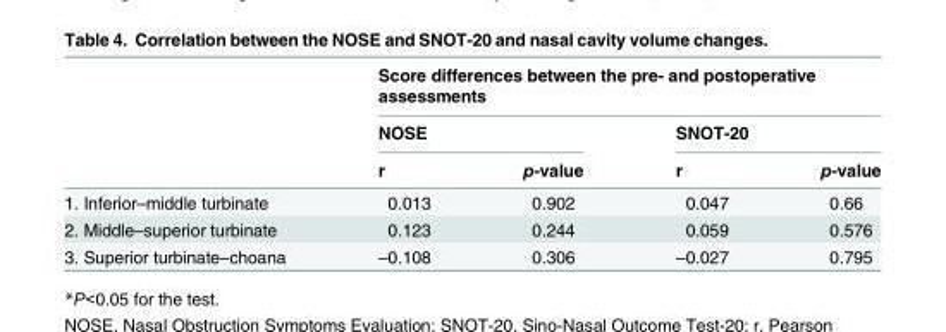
<table><thead><tr><td rowspan="3"></td><td colspan="4">Score differences between the pre- and postoperative assessments</td></tr><tr><td colspan="2">NOSE</td><td colspan="2">SNOT-20</td></tr><tr><td>r</td><td>p-value</td><td>r</td><td>p-value</td></tr></thead><tbody><tr><td>1. Inferior–middle turbinate</td><td>0.013</td><td>0.902</td><td>0.047</td><td>0.66</td></tr><tr><td>2. Middle–superior turbinate</td><td>0.123</td><td>0.244</td><td>0.059</td><td>0.576</td></tr><tr><td>3. Superior turbinate–choana</td><td>–0.108</td><td>0.306</td><td>–0.027</td><td>0.795</td></tr></tbody></table>